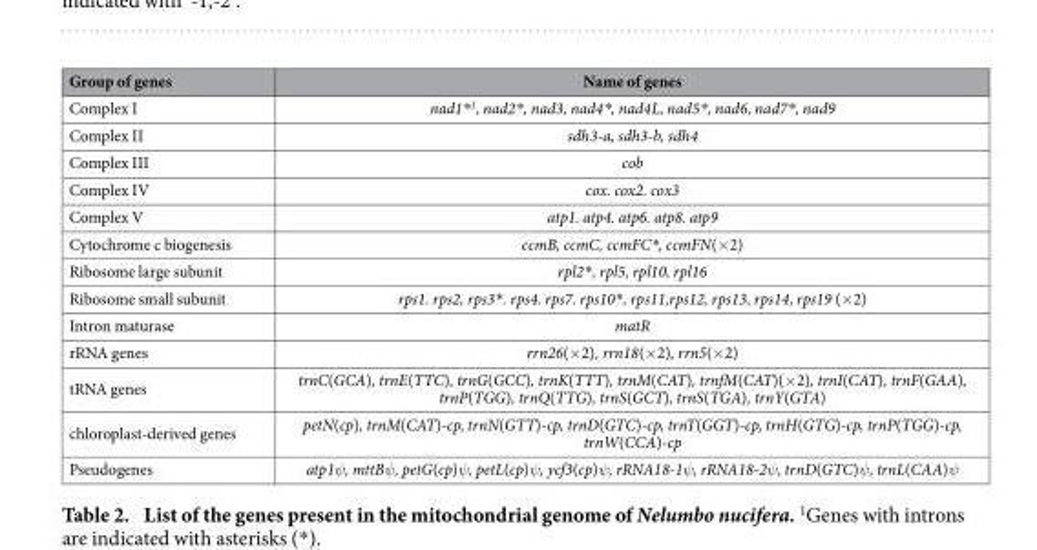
<table><thead><tr><td>Group of genes</td><td>Name of genes</td></tr></thead><tbody><tr><td>Complex I</td><td>nad1*<sup>1</sup>, nad2*, nad3, nad4*, nad4L, nad5*, nad6, nad7*, nad9</td></tr><tr><td>Complex II</td><td>sdh3-a, sdh3-b, sdh4</td></tr><tr><td>Complex III</td><td>cob</td></tr><tr><td>Complex IV</td><td>cox. cox2. cox3</td></tr><tr><td>Complex V</td><td>atp1. atp4. atp6. atp8. atp9</td></tr><tr><td>Cytochrome c biogenesis</td><td>ccmB, ccmC, ccmFC*, ccmFN(×2)</td></tr><tr><td>Ribosome large subunit</td><td>rpl2*, rpl5, rpl10, rpl16</td></tr><tr><td>Ribosome small subunit</td><td>rps1. rps2, rps3*. rps4. rps7. rps10*, rps11,rps12, rps13, rps14, rps19 (×2)</td></tr><tr><td>Intron maturase</td><td>matR</td></tr><tr><td>rRNA genes</td><td>rrn26(×2), rrn18(×2), rrn5(×2)</td></tr><tr><td>tRNA genes</td><td>trnC(GCA), trnE(TTC), trnG(GCC), trnK(TTT), trnM(CAT), trnfM(CAT)(×2), trnI(CAT), trnF(GAA), trnP(TGG), trnQ(TTG), trnS(GCT), trnS(TGA), trnY(GTA)</td></tr><tr><td>chloroplast-derived genes</td><td>petN(cp), trnM(CAT)-cp, trnN(GTT)-cp, trnD(GTC)-cp, trnT(GGT)-cp, trnH(GTG)-cp, trnP(TGG)-cp, trnW(CCA)-cp</td></tr><tr><td>Pseudogenes</td><td>atp1ψ, mttBψ, petG(cp)ψ, petL(cp)ψ, ycf3(cp)ψ, rRNA18-1ψ, rRNA18-2ψ, trnD(GTC)ψ, trnL(CAA)ψ</td></tr></tbody></table>